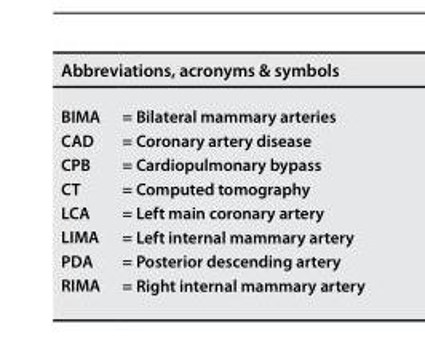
<table><thead><tr><td colspan="2">Abbreviations, acronyms &amp; symbols</td></tr><tr><td>BIMA</td><td>= Bilateral mammary arteries</td></tr></thead><tbody><tr><td>CAD</td><td>= Coronary artery disease</td></tr><tr><td>CPB</td><td>= Cardiopulmonary bypass</td></tr><tr><td>CT</td><td>= Computed tomography</td></tr><tr><td>LCA</td><td>= Left main coronary artery</td></tr><tr><td>LIMA</td><td>= Left internal mammary artery</td></tr><tr><td>PDA</td><td>= Posterior descending artery</td></tr><tr><td>RIMA</td><td>= Right internal mammary artery</td></tr></tbody></table>